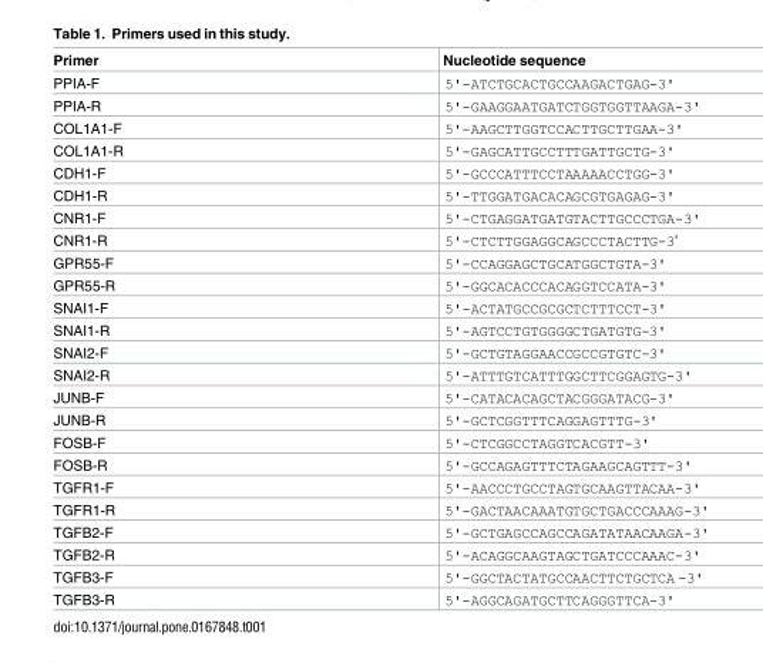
<table><thead><tr><td>Primer</td><td>Nucleotide sequence</td></tr></thead><tbody><tr><td>PPIA-F</td><td>5&#x27;-ATCTGCACTGCCAAGACTGAG-3&#x27;</td></tr><tr><td>PPIA-R</td><td>5&#x27;-GAAGGAATGATCTGGTGGTTAAGA-3&#x27;</td></tr><tr><td>COL1A1-F</td><td>5&#x27;-AAGCTTGGTCCACTTGCTTGAA-3&#x27;</td></tr><tr><td>COL1A1-R</td><td>5&#x27;-GAGCATTGCCTTTGATTGCTG-3&#x27;</td></tr><tr><td>CDH1-F</td><td>5&#x27;-GCCCATTTCCTAAAAACCTGG-3&#x27;</td></tr><tr><td>CDH1-R</td><td>5&#x27;-TTGGATGACACAGCGTGAGAG-3&#x27;</td></tr><tr><td>CNR1-F</td><td>5&#x27;-CTGAGGATGATGTACTTGCCCTGA-3&#x27;</td></tr><tr><td>CNR1-R</td><td>5&#x27;-CTCTTGGAGGCAGCCCTACTTG-3’</td></tr><tr><td>GPR55-F</td><td>5&#x27;-CCAGGAGCTGCATGGCTGTA-3&#x27;</td></tr><tr><td>GPR55-R</td><td>5&#x27;-GGCACACCCACAGGTCCATA-3&#x27;</td></tr><tr><td>SNAI1-F</td><td>5&#x27;-ACTATGCCGCGCTCTTTCCT-3&#x27;</td></tr><tr><td>SNAI1-R</td><td>5&#x27;-AGTCCTGTGGGGCTGATGTG-3&#x27;</td></tr><tr><td>SNAI2-F</td><td>5&#x27;-GCTGTAGGAACCGCCGTGTC-3&#x27;</td></tr><tr><td>SNAI2-R</td><td>5&#x27;-ATTTGTCATTTGGCTTCGGAGTG-3&#x27;</td></tr><tr><td>JUNB-F</td><td>5&#x27;-CATACACAGCTACGGGATACG-3&#x27;</td></tr><tr><td>JUNB-R</td><td>5&#x27;-GCTCGGTTTCAGGAGTTTG-3&#x27;</td></tr><tr><td>FOSB-F</td><td>5&#x27;-CTCGGCCTAGGTCACGTT-3&#x27;</td></tr><tr><td>FOSB-R</td><td>5&#x27;-GCCAGAGTTTCTAGAAGCAGTTT-3&#x27;</td></tr><tr><td>TGFR1-F</td><td>5&#x27;-AACCCTGCCTAGTGCAAGTTACAA-3&#x27;</td></tr><tr><td>TGFR1-R</td><td>5&#x27;-GACTAACAAATGTGCTGACCCAAAG-3&#x27;</td></tr><tr><td>TGFB2-F</td><td>5&#x27;-GCTGAGCCAGCCAGATATAACAAGA-3&#x27;</td></tr><tr><td>TGFB2-R</td><td>5&#x27;-ACAGGCAAGTAGCTGATCCCAAAC-3&#x27;</td></tr><tr><td>TGFB3-F</td><td>5&#x27;-GGCTACTATGCCAACTTCTGCTCA -3&#x27;</td></tr><tr><td>TGFB3-R</td><td>5&#x27;-AGGCAGATGCTTCAGGGTTCA-3&#x27;</td></tr></tbody></table>